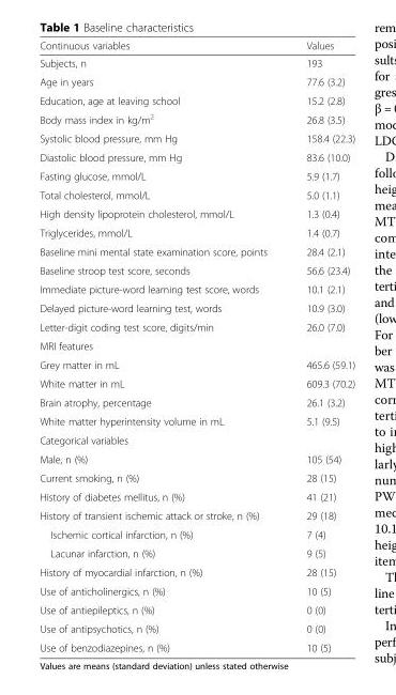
<table><thead><tr><td>Continuous variables</td><td>Values</td></tr></thead><tbody><tr><td>Subjects, n</td><td>193</td></tr><tr><td>Age in years</td><td>77.6 (3.2)</td></tr><tr><td>Education, age at leaving school</td><td>15.2 (2.8)</td></tr><tr><td>Body mass index in kg/m<sup>2</sup></td><td>26.8 (3.5)</td></tr><tr><td>Systolic blood pressure, mm Hg</td><td>158.4 (22.3)</td></tr><tr><td>Diastolic blood pressure, mm Hg</td><td>83.6 (10.0)</td></tr><tr><td>Fasting glucose, mmol/L</td><td>5.9 (1.7)</td></tr><tr><td>Total cholesterol, mmol/L</td><td>5.0 (1.1)</td></tr><tr><td>High density lipoprotein cholesterol, mmol/L</td><td>1.3 (0.4)</td></tr><tr><td>Triglycerides, mmol/L</td><td>1.4 (0.7)</td></tr><tr><td>Baseline mini mental state examination score, points</td><td>28.4 (2.1)</td></tr><tr><td>Baseline stroop test score, seconds</td><td>56.6 (23.4)</td></tr><tr><td>Immediate picture-word learning test score, words</td><td>10.1 (2.1)</td></tr><tr><td>Delayed picture-word learning test, words</td><td>10.9 (3.0)</td></tr><tr><td>Letter-digit coding test score, digits/min</td><td>26.0 (7.0)</td></tr><tr><td colspan="2">MRI features</td></tr><tr><td>Grey matter in mL</td><td>465.6 (59.1)</td></tr><tr><td>White matter in mL</td><td>609.3 (70.2)</td></tr><tr><td>Brain atrophy, percentage</td><td>26.1 (3.2)</td></tr><tr><td>White matter hyperintensity volume in mL</td><td>5.1 (9.5)</td></tr><tr><td colspan="2">Categorical variables</td></tr><tr><td>Male, n (%)</td><td>105 (54)</td></tr><tr><td>Current smoking, n (%)</td><td>28 (15)</td></tr><tr><td>History of diabetes mellitus, n (%)</td><td>41 (21)</td></tr><tr><td>History of transient ischemic attack or stroke, n (%)</td><td>29 (18)</td></tr><tr><td>Ischemic cortical infarction, n (%)</td><td>7 (4)</td></tr><tr><td>Lacunar infarction, n (%)</td><td>9 (5)</td></tr><tr><td>History of myocardial infarction, n (%)</td><td>28 (15)</td></tr><tr><td>Use of anticholinergics, n (%)</td><td>10 (5)</td></tr><tr><td>Use of antiepileptics, n (%)</td><td>0 (0)</td></tr><tr><td>Use of antipsychotics, n (%)</td><td>0 (0)</td></tr><tr><td>Use of benzodiazepines, n (%)</td><td>10 (5)</td></tr></tbody></table>